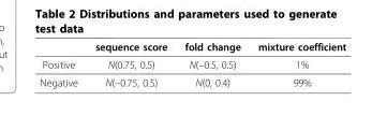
<table><thead><tr><td></td><td>sequence score</td><td>fold change</td><td>mixture coefficient</td></tr></thead><tbody><tr><td>Positive</td><td>N(0.75, 0.5)</td><td>N(–0.5, 0.5)</td><td>1%</td></tr><tr><td>Negative</td><td>N(–0.75, 0.5)</td><td>N(0, 0.4)</td><td>99%</td></tr></tbody></table>